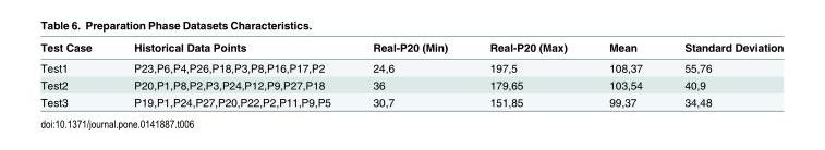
<table><thead><tr><td>Test Case</td><td>Historical Data Points</td><td>Real-P20 (Min)</td><td>Real-P20 (Max)</td><td>Mean</td><td>Standard Deviation</td></tr></thead><tbody><tr><td>Test1</td><td>P23,P6,P4,P26,P18,P3,P8,P16,P17,P2</td><td>24,6</td><td>197,5</td><td>108,37</td><td>55,76</td></tr><tr><td>Test2</td><td>P20,P1,P8,P2,P3,P24,P12,P9,P27,P18</td><td>36</td><td>179,65</td><td>103,54</td><td>40,9</td></tr><tr><td>Test3</td><td>P19,P1,P24,P27,P20,P22,P2,P11,P9,P5</td><td>30,7</td><td>151,85</td><td>99,37</td><td>34,48</td></tr></tbody></table>